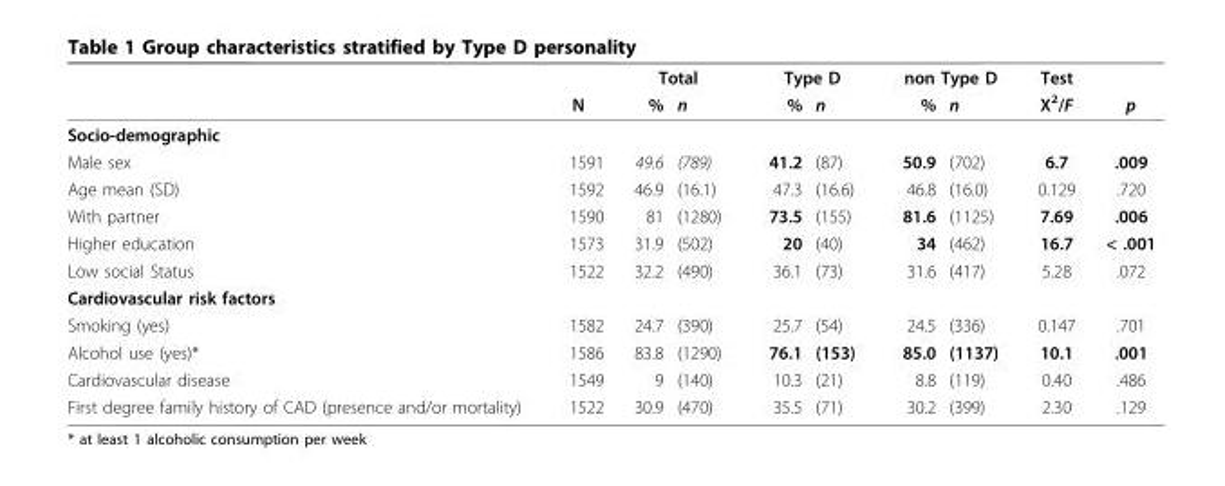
<table><thead><tr><td rowspan="2"></td><td rowspan="2">N</td><td colspan="2">Total</td><td colspan="2">Type D</td><td colspan="2">non Type D</td><td rowspan="2">Test X<sup>2</sup>/F</td><td rowspan="2">p</td></tr><tr><td>%</td><td>n</td><td>%</td><td>n</td><td>%</td><td>n</td></tr></thead><tbody><tr><td colspan="10">Socio-demographic</td></tr><tr><td>Male sex</td><td>1591</td><td>49.6</td><td>(789)</td><td>41.2</td><td>(87)</td><td>50.9</td><td>(702)</td><td>6.7</td><td>.009</td></tr><tr><td>Age mean (SD)</td><td>1592</td><td>46.9</td><td>(16.1)</td><td>47.3</td><td>(16.6)</td><td>46.8</td><td>(16.0)</td><td>0.129</td><td>.720</td></tr><tr><td>With partner</td><td>1590</td><td>81</td><td>(1280)</td><td>73.5</td><td>(155)</td><td>81.6</td><td>(1125)</td><td>7.69</td><td>.006</td></tr><tr><td>Higher education</td><td>1573</td><td>31.9</td><td>(502)</td><td>20</td><td>(40)</td><td>34</td><td>(462)</td><td>16.7</td><td>&lt; .001</td></tr><tr><td>Low social Status</td><td>1522</td><td>32.2</td><td>(490)</td><td>36.1</td><td>(73)</td><td>31.6</td><td>(417)</td><td>5.28</td><td>.072</td></tr><tr><td colspan="10">Cardiovascular risk factors</td></tr><tr><td>Smoking (yes)</td><td>1582</td><td>24.7</td><td>(390)</td><td>25.7</td><td>(54)</td><td>24.5</td><td>(336)</td><td>0.147</td><td>.701</td></tr><tr><td>Alcohol use (yes)*</td><td>1586</td><td>83.8</td><td>(1290)</td><td>76.1</td><td>(153)</td><td>85.0</td><td>(1137)</td><td>10.1</td><td>.001</td></tr><tr><td>Cardiovascular disease</td><td>1549</td><td>9</td><td>(140)</td><td>10.3</td><td>(21)</td><td>8.8</td><td>(119)</td><td>0.40</td><td>.486</td></tr><tr><td>First degree family history of CAD (presence and/or mortality)</td><td>1522</td><td>30.9</td><td>(470)</td><td>35.5</td><td>(71)</td><td>30.2</td><td>(399)</td><td>2.30</td><td>.129</td></tr></tbody></table>